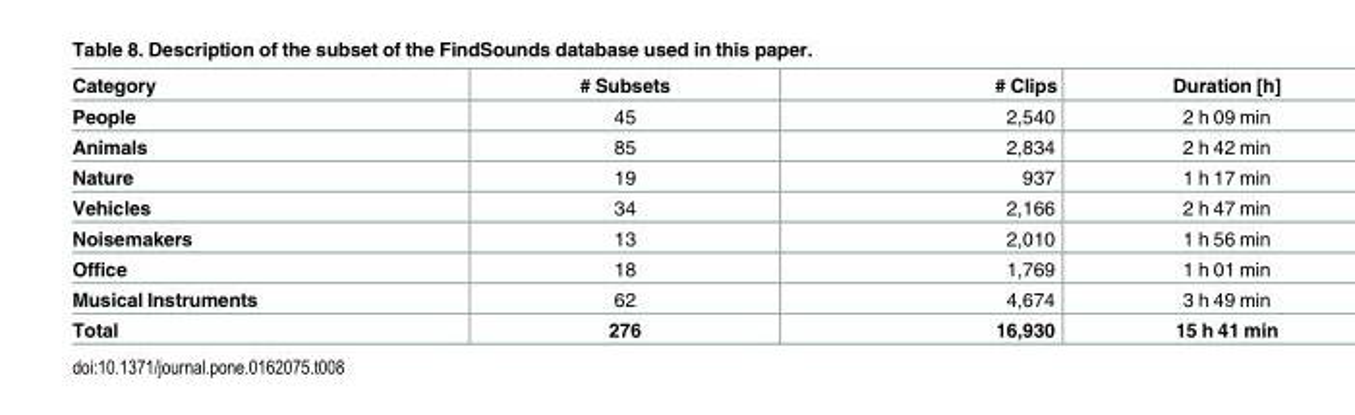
<table><thead><tr><td>Category</td><td># Subsets</td><td># Clips</td><td>Duration [h]</td></tr></thead><tbody><tr><td>People</td><td>45</td><td>2,540</td><td>2 h 09 min</td></tr><tr><td>Animals</td><td>85</td><td>2,834</td><td>2 h 42 min</td></tr><tr><td>Nature</td><td>19</td><td>937</td><td>1 h 17 min</td></tr><tr><td>Vehicles</td><td>34</td><td>2,166</td><td>2 h 47 min</td></tr><tr><td>Noisemakers</td><td>13</td><td>2,010</td><td>1 h 56 min</td></tr><tr><td>Office</td><td>18</td><td>1,769</td><td>1 h 01 min</td></tr><tr><td>Musical Instruments</td><td>62</td><td>4,674</td><td>3 h 49 min</td></tr><tr><td>Total</td><td>276</td><td>16,930</td><td>15 h 41 min</td></tr></tbody></table>